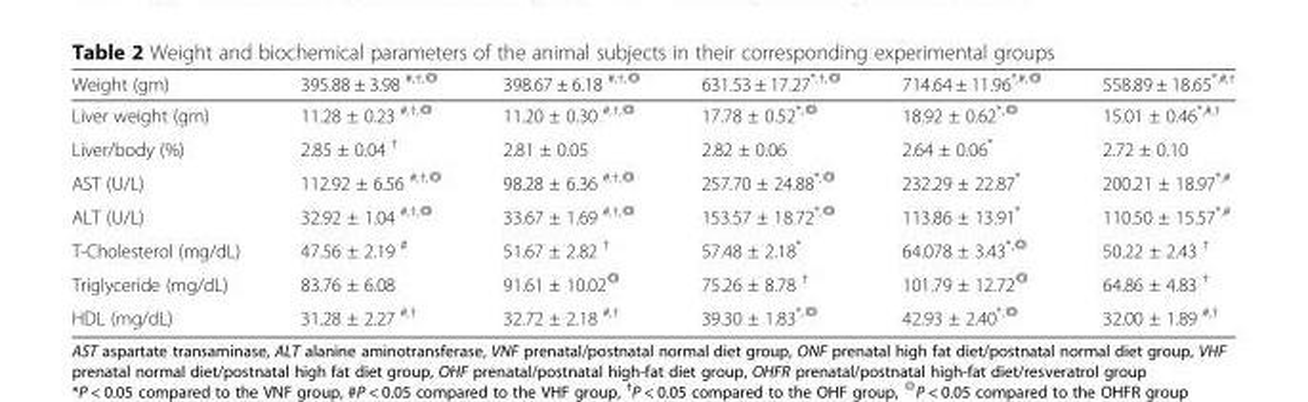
<table><thead><tr><td>Weight (gm)</td><td>395.88 ± 3.98 <sup>#,†,◎</sup></td><td>398.67 ± 6.18 <sup>#,†,◎</sup></td><td>631.53 ± 17.27<sup>*,†,◎</sup></td><td>714.64 ± 11.96<sup>*,#,◎</sup></td><td>558.89 ± 18.65<sup>*,#,†</sup></td></tr></thead><tbody><tr><td>Liver weight (gm)</td><td>11.28 ± 0.23 <sup>#,†,◎</sup></td><td>11.20 ± 0.30 <sup>#,†,◎</sup></td><td>17.78 ± 0.52<sup>*,◎</sup></td><td>18.92 ± 0.62<sup>*,◎</sup></td><td>15.01 ± 0.46<sup>*,#,†</sup></td></tr><tr><td>Liver/body (%)</td><td>2.85 ± 0.04 <sup>†</sup></td><td>2.81 ± 0.05</td><td>2.82 ± 0.06</td><td>2.64 ± 0.06*</td><td>2.72 ± 0.10</td></tr><tr><td>AST (U/L)</td><td>112.92 ± 6.56 <sup>#,†,◎</sup></td><td>98.28 ± 6.36 <sup>#,†,◎</sup></td><td>257.70 ± 24.88<sup>*,◎</sup></td><td>232.29 ± 22.87*</td><td>200.21 ± 18.97<sup>*,#</sup></td></tr><tr><td>ALT (U/L)</td><td>32.92 ± 1.04 <sup>#,†,◎</sup></td><td>33.67 ± 1.69 <sup>#,†,◎</sup></td><td>153.57 ± 18.72<sup>*,◎</sup></td><td>113.86 ± 13.91*</td><td>110.50 ± 15.57<sup>*,#</sup></td></tr><tr><td>T-Cholesterol (mg/dL)</td><td>47.56 ± 2.19 <sup>#</sup></td><td>51.67 ± 2.82 <sup>†</sup></td><td>57.48 ± 2.18*</td><td>64.078 ± 3.43<sup>*,◎</sup></td><td>50.22 ± 2.43 <sup>†</sup></td></tr><tr><td>Triglyceride (mg/dL)</td><td>83.76 ± 6.08</td><td>91.61 ± 10.02<sup>◎</sup></td><td>75.26 ± 8.78 <sup>†</sup></td><td>101.79 ± 12.72<sup>◎</sup></td><td>64.86 ± 4.83 <sup>†</sup></td></tr><tr><td>HDL (mg/dL)</td><td>31.28 ± 2.27 <sup>#,†</sup></td><td>32.72 ± 2.18 <sup>#,†</sup></td><td>39.30 ± 1.83<sup>*,◎</sup></td><td>42.93 ± 2.40<sup>*,◎</sup></td><td>32.00 ± 1.89 <sup>#,†</sup></td></tr></tbody></table>